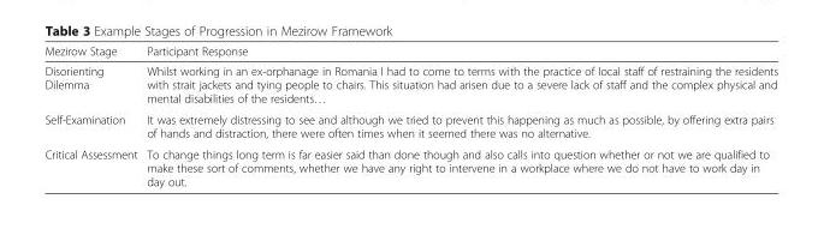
<table><thead><tr><td>Mezirow Stage</td><td>Participant Response</td></tr></thead><tbody><tr><td>Disorienting Dilemma</td><td>Whilst working in an ex-orphanage in Romania I had to come to terms with the practice of local staff of restraining the residents with strait jackets and tying people to chairs. This situation had arisen due to a severe lack of staff and the complex physical and mental disabilities of the residents…</td></tr><tr><td>Self-Examination</td><td>It was extremely distressing to see and although we tried to prevent this happening as much as possible, by offering extra pairs of hands and distraction, there were often times when it seemed there was no alternative.</td></tr><tr><td>Critical Assessment</td><td>To change things long term is far easier said than done though and also calls into question whether or not we are qualified to make these sort of comments, whether we have any right to intervene in a workplace where we do not have to work day in day out.</td></tr></tbody></table>